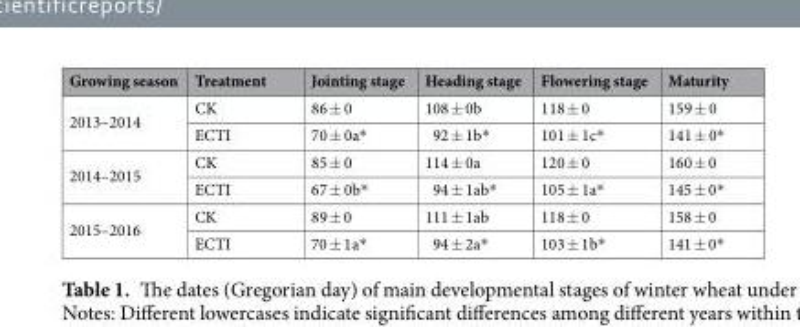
<table><thead><tr><td>Growing season</td><td>Treatment</td><td>Jointing stage</td><td>Heading stage</td><td>Flowering stage</td><td>Maturity</td></tr></thead><tbody><tr><td rowspan="2">2013–2014</td><td>CK</td><td>86 ± 0</td><td>108 ± 0b</td><td>118 ± 0</td><td>159 ± 0</td></tr><tr><td>ECTI</td><td>70 ± 0a*</td><td>92 ± 1b*</td><td>101 ± 1c*</td><td>141 ± 0*</td></tr><tr><td rowspan="2">2014–2015</td><td>CK</td><td>85 ± 0</td><td>114 ± 0a</td><td>120 ± 0</td><td>160 ± 0</td></tr><tr><td>ECTI</td><td>67 ± 0b*</td><td>94 ± 1ab*</td><td>105 ± 1a*</td><td>145 ± 0*</td></tr><tr><td rowspan="2">2015–2016</td><td>CK</td><td>89 ± 0</td><td>111 ± 1ab</td><td>118 ± 0</td><td>158 ± 0</td></tr><tr><td>ECTI</td><td>70 ± 1a*</td><td>94 ± 2a*</td><td>103 ± 1b*</td><td>141 ± 0*</td></tr></tbody></table>